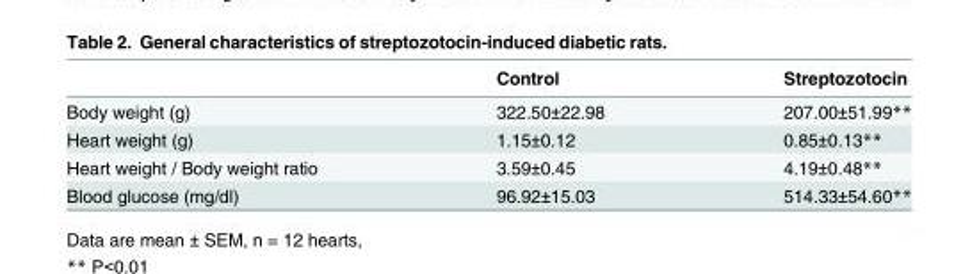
<table><thead><tr><td></td><td>Control</td><td>Streptozotocin</td></tr></thead><tbody><tr><td>Body weight (g)</td><td>322.50±22.98</td><td>207.00±51.99**</td></tr><tr><td>Heart weight (g)</td><td>1.15±0.12</td><td>0.85±0.13**</td></tr><tr><td>Heart weight / Body weight ratio</td><td>3.59±0.45</td><td>4.19±0.48**</td></tr><tr><td>Blood glucose (mg/dl)</td><td>96.92±15.03</td><td>514.33±54.60**</td></tr></tbody></table>